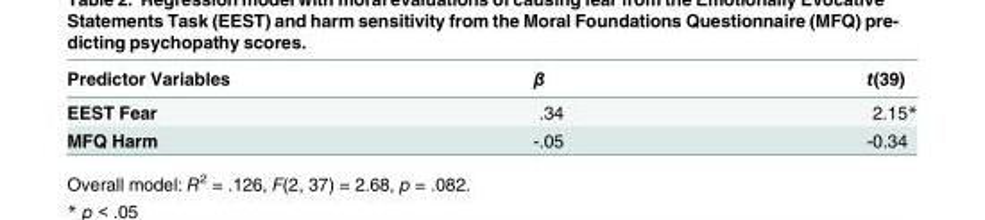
<table><thead><tr><td>Predictor Variables</td><td>β</td><td>t(39)</td></tr></thead><tbody><tr><td>EEST Fear</td><td>.34</td><td>2.15*</td></tr><tr><td>MFQ Harm</td><td>-.05</td><td>-0.34</td></tr></tbody></table>